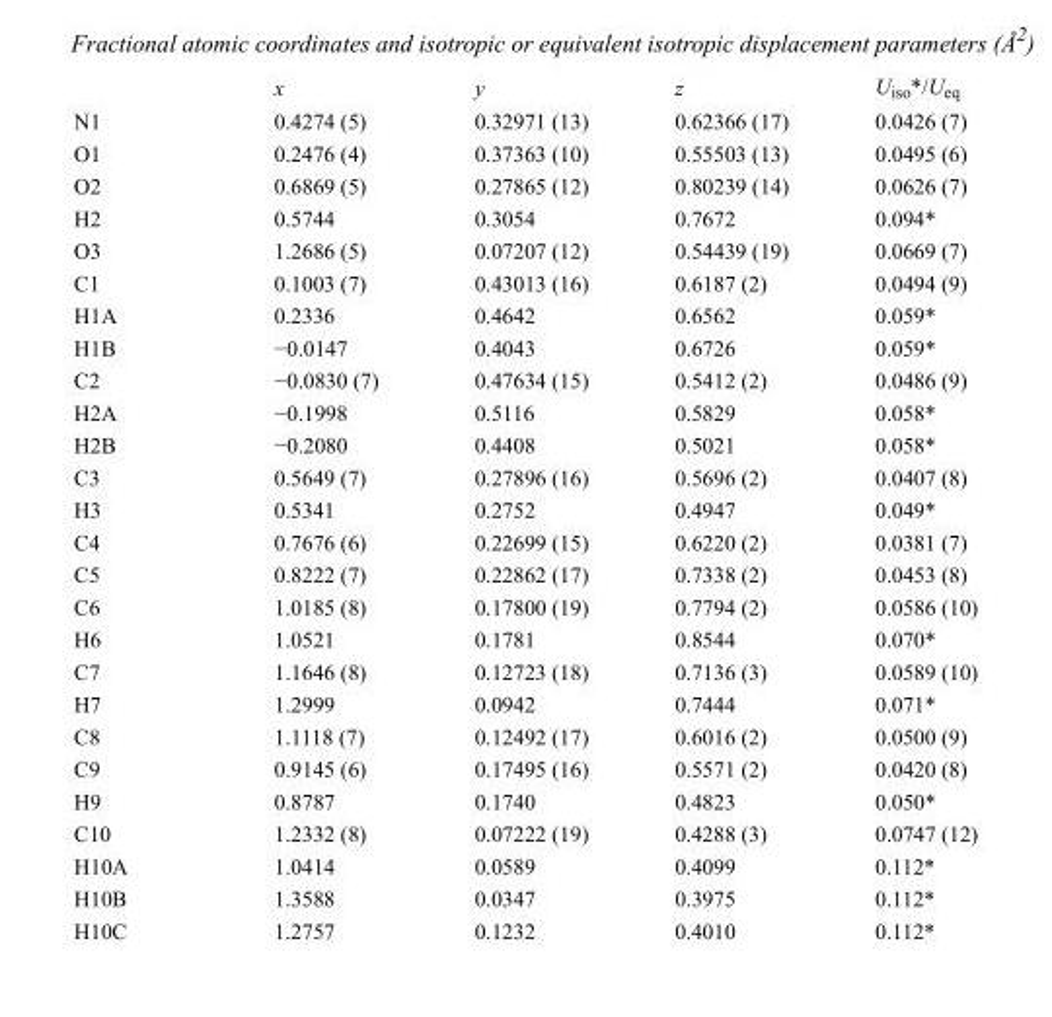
<table><thead><tr><td></td><td>x</td><td>y</td><td>z</td><td>U<sub>iso</sub>*/U<sub>eq</sub></td></tr></thead><tbody><tr><td>N1</td><td>0.4274 (5)</td><td>0.32971 (13)</td><td>0.62366 (17)</td><td>0.0426 (7)</td></tr><tr><td>O1</td><td>0.2476 (4)</td><td>0.37363 (10)</td><td>0.55503 (13)</td><td>0.0495 (6)</td></tr><tr><td>O2</td><td>0.6869 (5)</td><td>0.27865 (12)</td><td>0.80239 (14)</td><td>0.0626 (7)</td></tr><tr><td>H2</td><td>0.5744</td><td>0.3054</td><td>0.7672</td><td>0.094*</td></tr><tr><td>O3</td><td>1.2686 (5)</td><td>0.07207 (12)</td><td>0.54439 (19)</td><td>0.0669 (7)</td></tr><tr><td>C1</td><td>0.1003 (7)</td><td>0.43013 (16)</td><td>0.6187 (2)</td><td>0.0494 (9)</td></tr><tr><td>H1A</td><td>0.2336</td><td>0.4642</td><td>0.6562</td><td>0.059*</td></tr><tr><td>H1B</td><td>−0.0147</td><td>0.4043</td><td>0.6726</td><td>0.059*</td></tr><tr><td>C2</td><td>−0.0830 (7)</td><td>0.47634 (15)</td><td>0.5412 (2)</td><td>0.0486 (9)</td></tr><tr><td>H2A</td><td>−0.1998</td><td>0.5116</td><td>0.5829</td><td>0.058*</td></tr><tr><td>H2B</td><td>−0.2080</td><td>0.4408</td><td>0.5021</td><td>0.058*</td></tr><tr><td>C3</td><td>0.5649 (7)</td><td>0.27896 (16)</td><td>0.5696 (2)</td><td>0.0407 (8)</td></tr><tr><td>H3</td><td>0.5341</td><td>0.2752</td><td>0.4947</td><td>0.049*</td></tr><tr><td>C4</td><td>0.7676 (6)</td><td>0.22699 (15)</td><td>0.6220 (2)</td><td>0.0381 (7)</td></tr><tr><td>C5</td><td>0.8222 (7)</td><td>0.22862 (17)</td><td>0.7338 (2)</td><td>0.0453 (8)</td></tr><tr><td>C6</td><td>1.0185 (8)</td><td>0.17800 (19)</td><td>0.7794 (2)</td><td>0.0586 (10)</td></tr><tr><td>H6</td><td>1.0521</td><td>0.1781</td><td>0.8544</td><td>0.070*</td></tr><tr><td>C7</td><td>1.1646 (8)</td><td>0.12723 (18)</td><td>0.7136 (3)</td><td>0.0589 (10)</td></tr><tr><td>H7</td><td>1.2999</td><td>0.0942</td><td>0.7444</td><td>0.071*</td></tr><tr><td>C8</td><td>1.1118 (7)</td><td>0.12492 (17)</td><td>0.6016 (2)</td><td>0.0500 (9)</td></tr><tr><td>C9</td><td>0.9145 (6)</td><td>0.17495 (16)</td><td>0.5571 (2)</td><td>0.0420 (8)</td></tr><tr><td>H9</td><td>0.8787</td><td>0.1740</td><td>0.4823</td><td>0.050*</td></tr><tr><td>C10</td><td>1.2332 (8)</td><td>0.07222 (19)</td><td>0.4288 (3)</td><td>0.0747 (12)</td></tr><tr><td>H10A</td><td>1.0414</td><td>0.0589</td><td>0.4099</td><td>0.112*</td></tr><tr><td>H10B</td><td>1.3588</td><td>0.0347</td><td>0.3975</td><td>0.112*</td></tr><tr><td>H10C</td><td>1.2757</td><td>0.1232</td><td>0.4010</td><td>0.112*</td></tr></tbody></table>